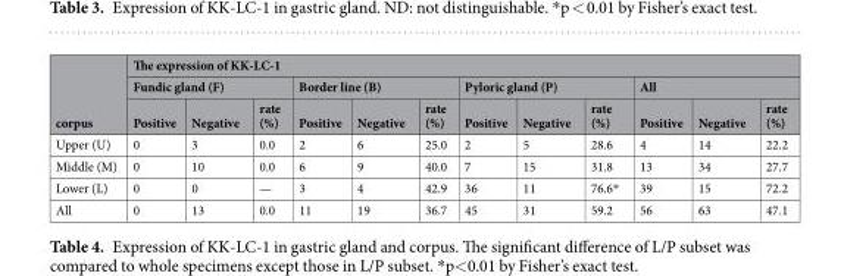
<table><thead><tr><td rowspan="3">corpus</td><td colspan="12">The expression of KK-LC-1</td></tr><tr><td colspan="3">Fundic gland (F)</td><td colspan="3">Border line (B)</td><td colspan="3">Pyloric gland (P)</td><td colspan="3">All</td></tr><tr><td>Positive</td><td>Negative</td><td>rate (%)</td><td>Positive</td><td>Negative</td><td>rate (%)</td><td>Positive</td><td>Negative</td><td>rate (%)</td><td>Positive</td><td>Negative</td><td>rate (%)</td></tr></thead><tbody><tr><td>Upper (U)</td><td>0</td><td>3</td><td>0.0</td><td>2</td><td>6</td><td>25.0</td><td>2</td><td>5</td><td>28.6</td><td>4</td><td>14</td><td>22.2</td></tr><tr><td>Middle (M)</td><td>0</td><td>10</td><td>0.0</td><td>6</td><td>9</td><td>40.0</td><td>7</td><td>15</td><td>31.8</td><td>13</td><td>34</td><td>27.7</td></tr><tr><td>Lower (L)</td><td>0</td><td>0</td><td>—</td><td>3</td><td>4</td><td>42.9</td><td>36</td><td>11</td><td>76.6*</td><td>39</td><td>15</td><td>72.2</td></tr><tr><td>All</td><td>0</td><td>13</td><td>0.0</td><td>11</td><td>19</td><td>36.7</td><td>45</td><td>31</td><td>59.2</td><td>56</td><td>63</td><td>47.1</td></tr></tbody></table>